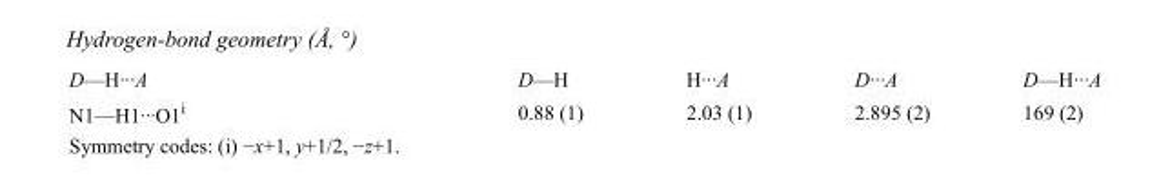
<table><tbody><tr><td>D—H···A</td><td>D—H</td><td>H···A</td><td>D···A</td><td>D—H···A</td></tr><tr><td>N1—H1···O1<sup>i</sup></td><td>0.88 (1)</td><td>2.03 (1)</td><td>2.895 (2)</td><td>169 (2)</td></tr></tbody></table>